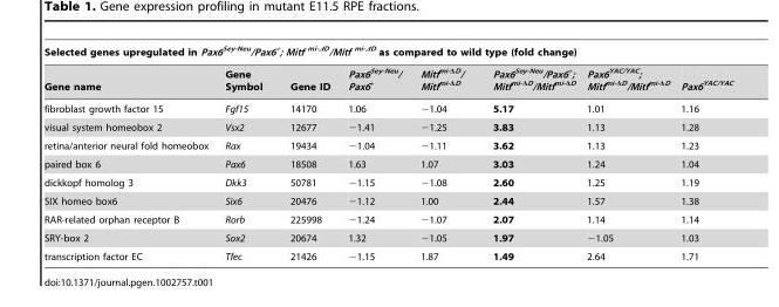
<table><thead><tr><td colspan="8">Selected genes upregulated in Pax6<sup>Sey-Neu</sup>/Pax6<sup>+</sup>; Mitf <sup>mi-ΔD</sup>/Mitf <sup>mi-ΔD</sup> as compared to wild type (fold change)</td></tr><tr><td>Gene name</td><td>Gene Symbol</td><td>Gene ID</td><td>Pax6<sup>Sey-Neu</sup>/ Pax6<sup>+</sup></td><td>Mitf<sup>mi-ΔD</sup>/ Mitf<sup>mi-ΔD</sup></td><td>Pax6<sup>Sey-Neu</sup>/Pax6<sup>+</sup>; Mitf<sup>mi-ΔD</sup>/Mitf<sup>mi-ΔD</sup></td><td>Pax6<sup>YAC/YAC</sup>; Mitf<sup>mi-ΔD</sup>/Mitf<sup>mi-ΔD</sup></td><td>Pax6<sup>YAC/YAC</sup></td></tr></thead><tbody><tr><td>fibroblast growth factor 15</td><td>Fgf15</td><td>14170</td><td>1.06</td><td>−1.04</td><td>5.17</td><td>1.01</td><td>1.16</td></tr><tr><td>visual system homeobox 2</td><td>Vsx2</td><td>12677</td><td>−1.41</td><td>−1.25</td><td>3.83</td><td>1.13</td><td>1.28</td></tr><tr><td>retina/anterior neural fold homeobox</td><td>Rax</td><td>19434</td><td>−1.04</td><td>−1.11</td><td>3.62</td><td>1.13</td><td>1.23</td></tr><tr><td>paired box 6</td><td>Pax6</td><td>18508</td><td>1.63</td><td>1.07</td><td>3.03</td><td>1.24</td><td>1.04</td></tr><tr><td>dickkopf homolog 3</td><td>Dkk3</td><td>50781</td><td>−1.15</td><td>−1.08</td><td>2.60</td><td>1.25</td><td>1.19</td></tr><tr><td>SIX homeo box6</td><td>Six6</td><td>20476</td><td>−1.12</td><td>1.00</td><td>2.44</td><td>1.57</td><td>1.38</td></tr><tr><td>RAR-related orphan receptor B</td><td>Rorb</td><td>225998</td><td>−1.24</td><td>−1.07</td><td>2.07</td><td>1.14</td><td>1.14</td></tr><tr><td>SRY-box 2</td><td>Sox2</td><td>20674</td><td>1.32</td><td>−1.05</td><td>1.97</td><td>−1.05</td><td>1.03</td></tr><tr><td>transcription factor EC</td><td>Tfec</td><td>21426</td><td>−1.15</td><td>1.87</td><td>1.49</td><td>2.64</td><td>1.71</td></tr></tbody></table>